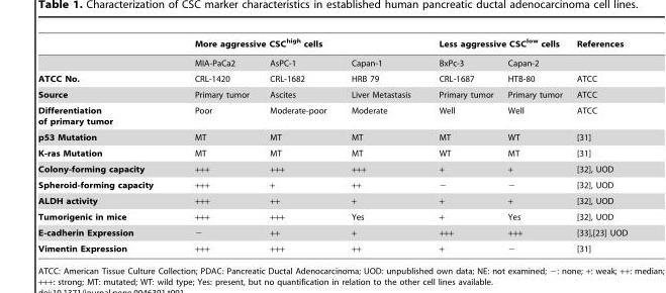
<table><thead><tr><td rowspan="2"></td><td colspan="3">More aggressive CSC<sup>high</sup> cells</td><td colspan="2">Less aggressive CSC<sup>low</sup> cells</td><td rowspan="2">References</td></tr><tr><td>MIA-PaCa2</td><td>AsPC-1</td><td>Capan-1</td><td>BxPc-3</td><td>Capan-2</td></tr></thead><tbody><tr><td>ATCC No.</td><td>CRL-1420</td><td>CRL-1682</td><td>HRB 79</td><td>CRL-1687</td><td>HTB-80</td><td>ATCC</td></tr><tr><td>Source</td><td>Primary tumor</td><td>Ascites</td><td>Liver Metastasis</td><td>Primary tumor</td><td>Primary tumor</td><td>ATCC</td></tr><tr><td>Differentiation of primary tumor</td><td>Poor</td><td>Moderate-poor</td><td>Moderate</td><td>Well</td><td>Well</td><td>ATCC</td></tr><tr><td>p53 Mutation</td><td>MT</td><td>MT</td><td>MT</td><td>MT</td><td>WT</td><td>[31]</td></tr><tr><td>K-ras Mutation</td><td>MT</td><td>MT</td><td>MT</td><td>WT</td><td>MT</td><td>[31]</td></tr><tr><td>Colony-forming capacity</td><td>+++</td><td>+++</td><td>+++</td><td>+</td><td>+</td><td>[32], UOD</td></tr><tr><td>Spheroid-forming capacity</td><td>+++</td><td>+</td><td>++</td><td>−</td><td>−</td><td>[32], UOD</td></tr><tr><td>ALDH activity</td><td>+++</td><td>++</td><td>+</td><td>+</td><td>+</td><td>[32], UOD</td></tr><tr><td>Tumorigenic in mice</td><td>+++</td><td>+++</td><td>Yes</td><td>+</td><td>Yes</td><td>[32], UOD</td></tr><tr><td>E-cadherin Expression</td><td>−</td><td>++</td><td>+</td><td>+++</td><td>+++</td><td>[33],[23] UOD</td></tr><tr><td>Vimentin Expression</td><td>+++</td><td>+++</td><td>++</td><td>+</td><td>−</td><td>[31]</td></tr></tbody></table>